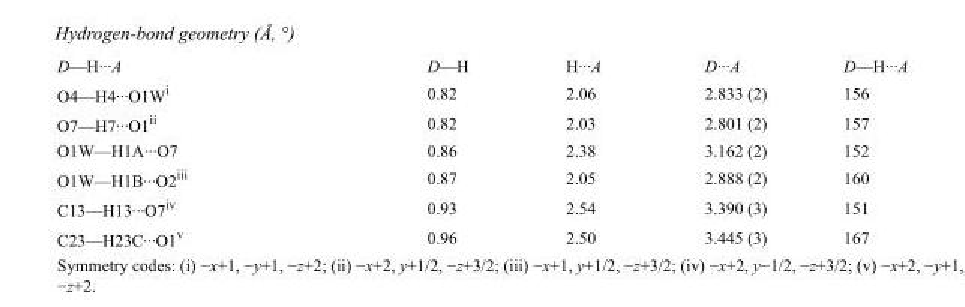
<table><tbody><tr><td>D—H···A</td><td>D—H</td><td>H···A</td><td>D···A</td><td>D—H···A</td></tr><tr><td>O4—H4···O1W<sup>i</sup></td><td>0.82</td><td>2.06</td><td>2.833 (2)</td><td>156</td></tr><tr><td>O7—H7···O1<sup>ii</sup></td><td>0.82</td><td>2.03</td><td>2.801 (2)</td><td>157</td></tr><tr><td>O1W—H1A···O7</td><td>0.86</td><td>2.38</td><td>3.162 (2)</td><td>152</td></tr><tr><td>O1W—H1B···O2<sup>iii</sup></td><td>0.87</td><td>2.05</td><td>2.888 (2)</td><td>160</td></tr><tr><td>C13—H13···O7<sup>iv</sup></td><td>0.93</td><td>2.54</td><td>3.390 (3)</td><td>151</td></tr><tr><td>C23—H23C···O1<sup>v</sup></td><td>0.96</td><td>2.50</td><td>3.445 (3)</td><td>167</td></tr></tbody></table>